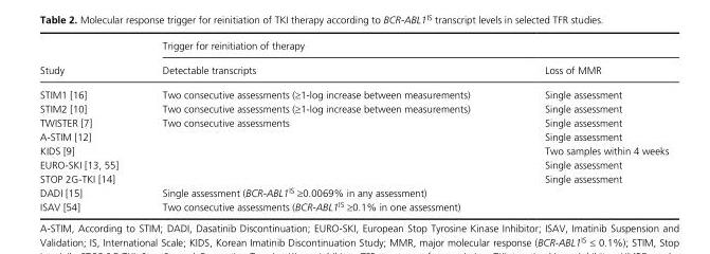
<table><thead><tr><td rowspan="2">Study</td><td colspan="2">Trigger for reinitiation of therapy</td></tr><tr><td>Detectable transcripts</td><td>Loss of MMR</td></tr></thead><tbody><tr><td>STIM1 [16]</td><td>Two consecutive assessments (≥1- log increase between measurements)</td><td>Single assessment</td></tr><tr><td>STIM2 [10]</td><td>Two consecutive assessments (≥1- log increase between measurements)</td><td>Single assessment</td></tr><tr><td>TWISTER [7]</td><td>Two consecutive assessments</td><td>Single assessment</td></tr><tr><td>A- STIM [12]</td><td></td><td>Single assessment</td></tr><tr><td>KIDS [9]</td><td></td><td>Two samples within 4 weeks</td></tr><tr><td>EURO- SKI [13, 55]</td><td></td><td>Single assessment</td></tr><tr><td>STOP 2G- TKI [14]</td><td></td><td>Single assessment</td></tr><tr><td>DADI [15]</td><td>Single assessment (BCR-ABL1<sup>IS</sup> ≥0.0069% in any assessment)</td><td></td></tr><tr><td>ISAV [54]</td><td>Two consecutive assessments (BCR-ABL1<sup>IS</sup> ≥0.1% in one assessment)</td><td></td></tr></tbody></table>